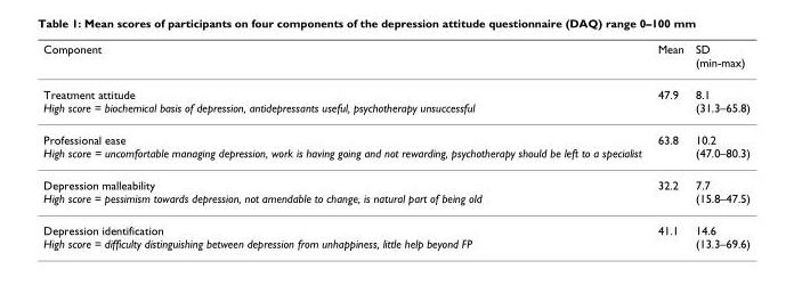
<table><thead><tr><td>Component</td><td>Mean</td><td>SD (min-max)</td></tr></thead><tbody><tr><td>Treatment attitude High score = biochemical basis of depression, antidepressants useful, psychotherapy unsuccessful</td><td>47.9</td><td>8.1 (31.3–65.8)</td></tr><tr><td>Professional ease High score = uncomfortable managing depression, work is having going and not rewarding, psychotherapy should be left to a specialist</td><td>63.8</td><td>10.2 (47.0–80.3)</td></tr><tr><td>Depression malleability High score = pessimism towards depression, not amendable to change, is natural part of being old</td><td>32.2</td><td>7.7 (15.8–47.5)</td></tr><tr><td>Depression identification High score = difficulty distinguishing between depression from unhappiness, little help beyond FP</td><td>41.1</td><td>14.6 (13.3–69.6)</td></tr></tbody></table>